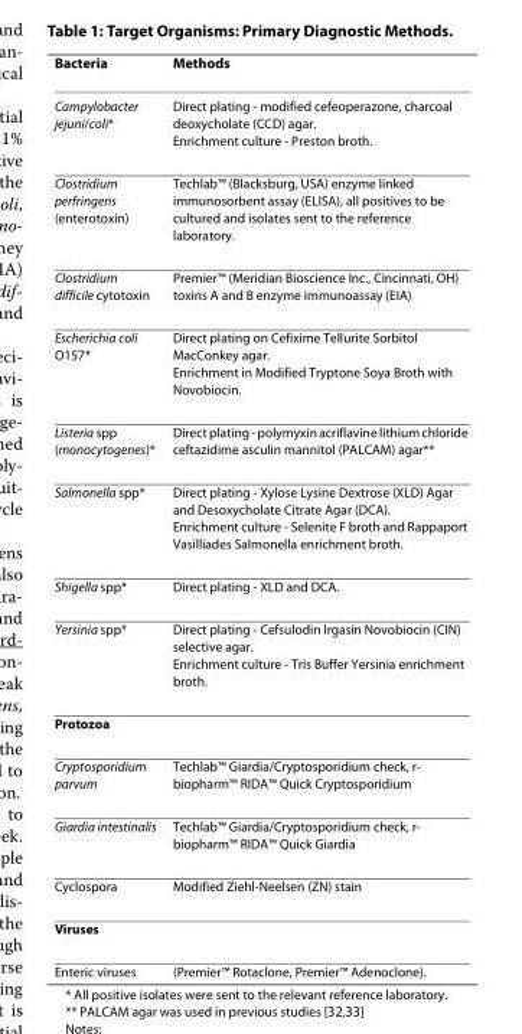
<table><thead><tr><td>Bacteria</td><td>Methods</td></tr></thead><tbody><tr><td>Campylobacter jejuni/coli*</td><td>Direct plating - modified cefeoperazone, charcoal deoxycholate (CCD) agar. Enrichment culture - Preston broth.</td></tr><tr><td>Clostridium perfringens (enterotoxin)</td><td>Techlab™ (Blacksburg, USA) enzyme linked immunosorbent assay (ELISA), all positives to be cultured and isolates sent to the reference laboratory.</td></tr><tr><td>Clostridium difficile cytotoxin</td><td>Premier™ (Meridian Bioscience Inc., Cincinnati, OH) toxins A and B enzyme immunoassay (EIA)</td></tr><tr><td>Escherichia coli O157*</td><td>Direct plating on Cefixime Tellurite Sorbitol MacConkey agar. Enrichment in Modified Tryptone Soya Broth with Novobiocin.</td></tr><tr><td>Listeria spp (monocytogenes)*</td><td>Direct plating - polymyxin acriflavine lithium chloride ceftazidime asculin mannitol (PALCAM) agar**</td></tr><tr><td>Salmonella spp*</td><td>Direct plating - Xylose Lysine Dextrose (XLD) Agar and Desoxycholate Citrate Agar (DCA). Enrichment culture - Selenite F broth and Rappaport Vasilliades Salmonella enrichment broth.</td></tr><tr><td>Shigella spp*</td><td>Direct plating - XLD and DCA.</td></tr><tr><td>Yersinia spp*</td><td>Direct plating - Cefsulodin Irgasin Novobiocin (CIN) selective agar. Enrichment culture - Tris Buffer Yersinia enrichment broth.</td></tr><tr><td colspan="2">Protozoa</td></tr><tr><td>Cryptosporidium parvum</td><td>Techlab™ Giardia/Cryptosporidium check, r- biopharm™ RIDA™ Quick Cryptosporidium</td></tr><tr><td>Giardia intestinalis</td><td>Techlab™ Giardia/Cryptosporidium check, r- biopharm™ RIDA™ Quick Giardia</td></tr><tr><td>Cyclospora</td><td>Modified Ziehl-Neelsen (ZN) stain</td></tr><tr><td colspan="2">Viruses</td></tr><tr><td>Enteric viruses</td><td>(Premier™ Rotaclone, Premier™ Adenoclone).</td></tr></tbody></table>